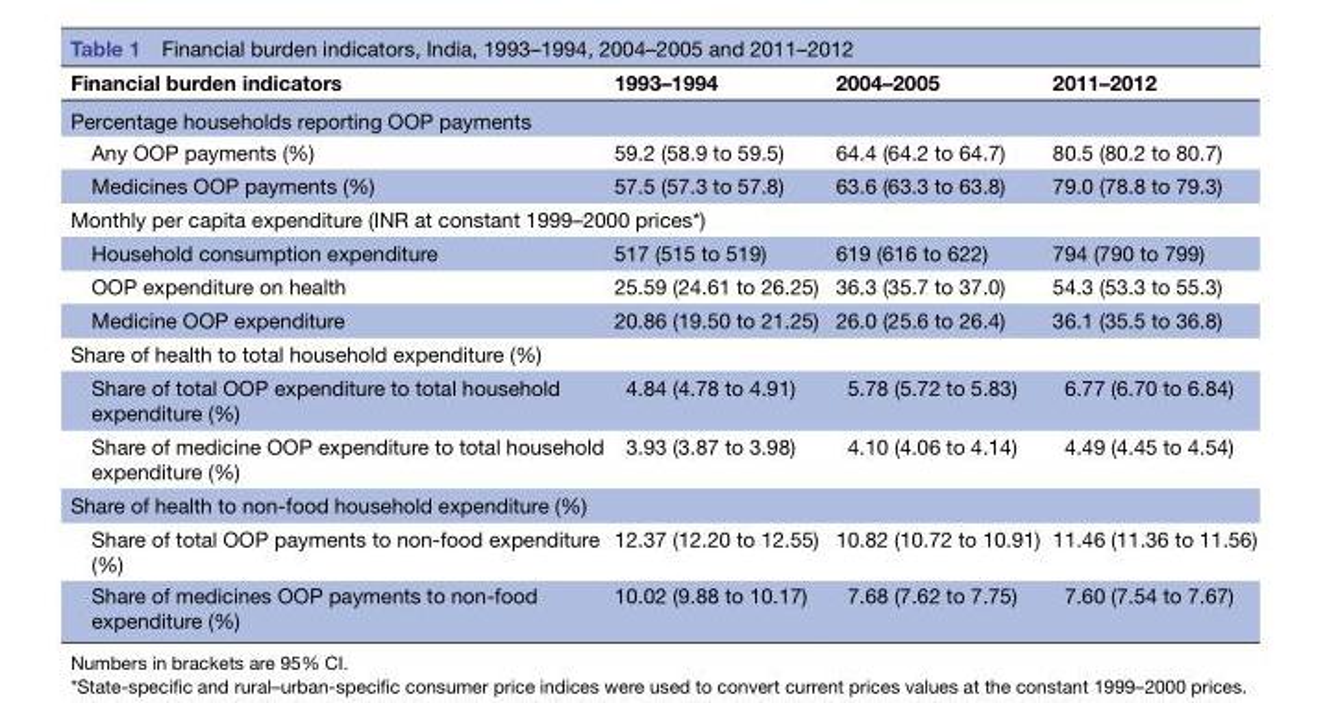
<table><thead><tr><td>Financial burden indicators</td><td>1993–1994</td><td>2004–2005</td><td>2011–2012</td></tr></thead><tbody><tr><td colspan="4">Percentage households reporting OOP payments</td></tr><tr><td>Any OOP payments (%)</td><td>59.2 (58.9 to 59.5)</td><td>64.4 (64.2 to 64.7)</td><td>80.5 (80.2 to 80.7)</td></tr><tr><td>Medicines OOP payments (%)</td><td>57.5 (57.3 to 57.8)</td><td>63.6 (63.3 to 63.8)</td><td>79.0 (78.8 to 79.3)</td></tr><tr><td colspan="4">Monthly per capita expenditure (INR at constant 1999–2000 prices*)</td></tr><tr><td>Household consumption expenditure</td><td>517 (515 to 519)</td><td>619 (616 to 622)</td><td>794 (790 to 799)</td></tr><tr><td>OOP expenditure on health</td><td>25.59 (24.61 to 26.25)</td><td>36.3 (35.7 to 37.0)</td><td>54.3 (53.3 to 55.3)</td></tr><tr><td>Medicine OOP expenditure</td><td>20.86 (19.50 to 21.25)</td><td>26.0 (25.6 to 26.4)</td><td>36.1 (35.5 to 36.8)</td></tr><tr><td colspan="4">Share of health to total household expenditure (%)</td></tr><tr><td>Share of total OOP expenditure to total household expenditure (%)</td><td>4.84 (4.78 to 4.91)</td><td>5.78 (5.72 to 5.83)</td><td>6.77 (6.70 to 6.84)</td></tr><tr><td>Share of medicine OOP expenditure to total household expenditure (%)</td><td>3.93 (3.87 to 3.98)</td><td>4.10 (4.06 to 4.14)</td><td>4.49 (4.45 to 4.54)</td></tr><tr><td colspan="4">Share of health to non-food household expenditure (%)</td></tr><tr><td>Share of total OOP payments to non-food expenditure (%)</td><td>12.37 (12.20 to 12.55)</td><td>10.82 (10.72 to 10.91)</td><td>11.46 (11.36 to 11.56)</td></tr><tr><td>Share of medicines OOP payments to non-food expenditure (%)</td><td>10.02 (9.88 to 10.17)</td><td>7.68 (7.62 to 7.75)</td><td>7.60 (7.54 to 7.67)</td></tr></tbody></table>